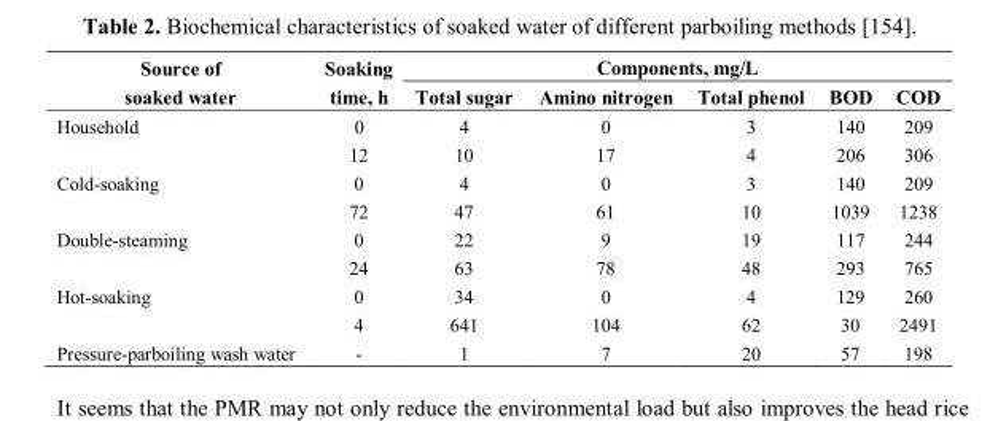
<table><thead><tr><td rowspan="2">Source of soaked water</td><td rowspan="2">Soaking time, h</td><td colspan="5">Components, mg/L</td></tr><tr><td>Total sugar</td><td>Amino nitrogen</td><td>Total phenol</td><td>BOD</td><td>COD</td></tr></thead><tbody><tr><td rowspan="2">Household</td><td>0</td><td>4</td><td>0</td><td>3</td><td>140</td><td>209</td></tr><tr><td>12</td><td>10</td><td>17</td><td>4</td><td>206</td><td>306</td></tr><tr><td rowspan="2">Cold-soaking</td><td>0</td><td>4</td><td>0</td><td>3</td><td>140</td><td>209</td></tr><tr><td>72</td><td>47</td><td>61</td><td>10</td><td>1039</td><td>1238</td></tr><tr><td rowspan="2">Double-steaming</td><td>0</td><td>22</td><td>9</td><td>19</td><td>117</td><td>244</td></tr><tr><td>24</td><td>63</td><td>78</td><td>48</td><td>293</td><td>765</td></tr><tr><td rowspan="2">Hot-soaking</td><td>0</td><td>34</td><td>0</td><td>4</td><td>129</td><td>260</td></tr><tr><td>4</td><td>641</td><td>104</td><td>62</td><td>30</td><td>2491</td></tr><tr><td>Pressure-parboiling wash water</td><td>-</td><td>1</td><td>7</td><td>20</td><td>57</td><td>198</td></tr></tbody></table>